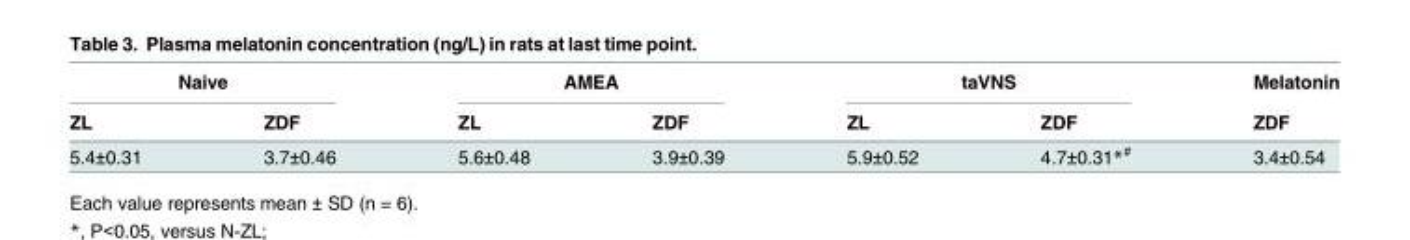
<table><thead><tr><td colspan="2">Naive</td><td colspan="2">AMEA</td><td colspan="2">taVNS</td><td rowspan="2">Melatonin ZDF</td></tr><tr><td>ZL</td><td>ZDF</td><td>ZL</td><td>ZDF</td><td>ZL</td><td>ZDF</td></tr></thead><tbody><tr><td>5.4±0.31</td><td>3.7±0.46</td><td>5.6±0.48</td><td>3.9±0.39</td><td>5.9±0.52</td><td>4.7±0.31*<sup>#</sup></td><td>3.4±0.54</td></tr></tbody></table>